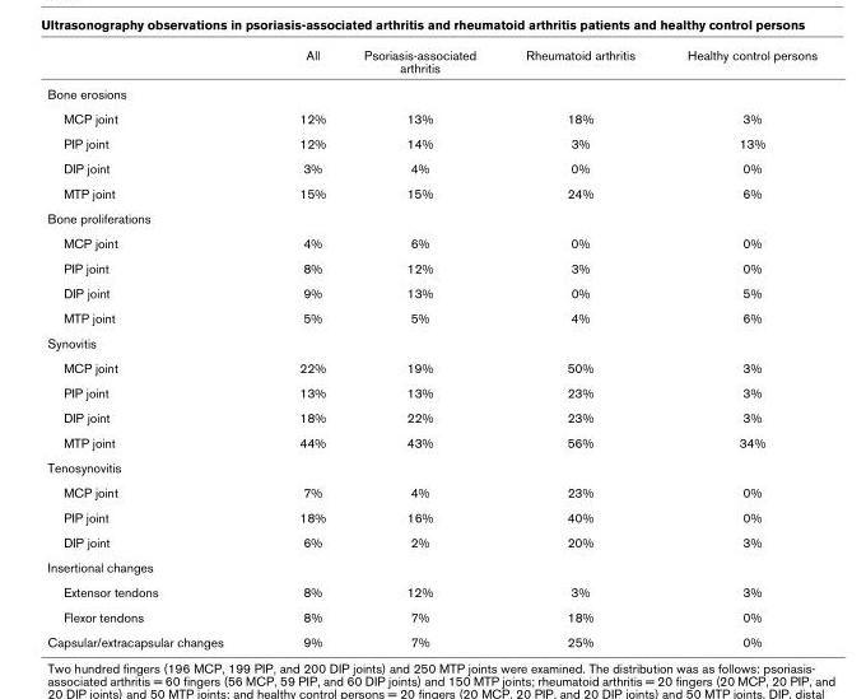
<table><thead><tr><td></td><td>All</td><td>Psoriasis-associated arthritis</td><td>Rheumatoid arthritis</td><td>Healthy control persons</td></tr></thead><tbody><tr><td colspan="5">Bone erosions</td></tr><tr><td>MCP joint</td><td>12%</td><td>13%</td><td>18%</td><td>3%</td></tr><tr><td>PIP joint</td><td>12%</td><td>14%</td><td>3%</td><td>13%</td></tr><tr><td>DIP joint</td><td>3%</td><td>4%</td><td>0%</td><td>0%</td></tr><tr><td>MTP joint</td><td>15%</td><td>15%</td><td>24%</td><td>6%</td></tr><tr><td colspan="5">Bone proliferations</td></tr><tr><td>MCP joint</td><td>4%</td><td>6%</td><td>0%</td><td>0%</td></tr><tr><td>PIP joint</td><td>8%</td><td>12%</td><td>3%</td><td>0%</td></tr><tr><td>DIP joint</td><td>9%</td><td>13%</td><td>0%</td><td>5%</td></tr><tr><td>MTP joint</td><td>5%</td><td>5%</td><td>4%</td><td>6%</td></tr><tr><td colspan="5">Synovitis</td></tr><tr><td>MCP joint</td><td>22%</td><td>19%</td><td>50%</td><td>3%</td></tr><tr><td>PIP joint</td><td>13%</td><td>13%</td><td>23%</td><td>3%</td></tr><tr><td>DIP joint</td><td>18%</td><td>22%</td><td>23%</td><td>3%</td></tr><tr><td>MTP joint</td><td>44%</td><td>43%</td><td>56%</td><td>34%</td></tr><tr><td colspan="5">Tenosynovitis</td></tr><tr><td>MCP joint</td><td>7%</td><td>4%</td><td>23%</td><td>0%</td></tr><tr><td>PIP joint</td><td>18%</td><td>16%</td><td>40%</td><td>0%</td></tr><tr><td>DIP joint</td><td>6%</td><td>2%</td><td>20%</td><td>3%</td></tr><tr><td colspan="5">Insertional changes</td></tr><tr><td>Extensor tendons</td><td>8%</td><td>12%</td><td>3%</td><td>3%</td></tr><tr><td>Flexor tendons</td><td>8%</td><td>7%</td><td>18%</td><td>0%</td></tr><tr><td>Capsular/extracapsular changes</td><td>9%</td><td>7%</td><td>25%</td><td>0%</td></tr></tbody></table>